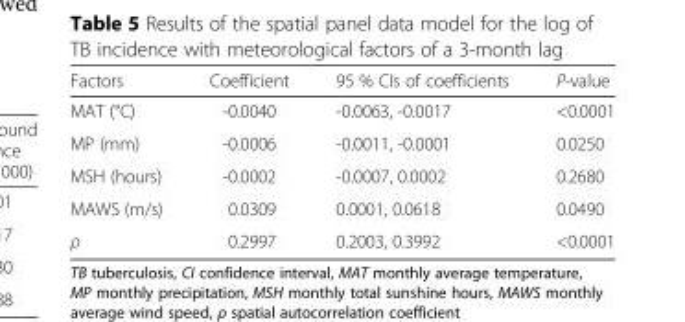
<table><thead><tr><td>Factors</td><td>Coefficient</td><td>95 % CIs of coefficients</td><td>P-value</td></tr></thead><tbody><tr><td>MAT (°C)</td><td>-0.0040</td><td>-0.0063, -0.0017</td><td>&lt;0.0001</td></tr><tr><td>MP (mm)</td><td>-0.0006</td><td>-0.0011, -0.0001</td><td>0.0250</td></tr><tr><td>MSH (hours)</td><td>-0.0002</td><td>-0.0007, 0.0002</td><td>0.2680</td></tr><tr><td>MAWS (m/s)</td><td>0.0309</td><td>0.0001, 0.0618</td><td>0.0490</td></tr><tr><td>ρ</td><td>0.2997</td><td>0.2003, 0.3992</td><td>&lt;0.0001</td></tr></tbody></table>